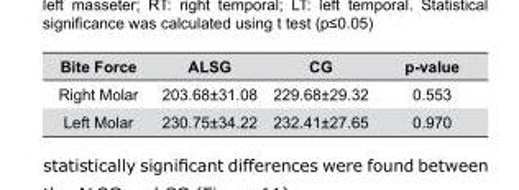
<table><thead><tr><td>Bite Force</td><td>ALSG</td><td>CG</td><td>p-value</td></tr></thead><tbody><tr><td>Right Molar</td><td>203.68±31.08</td><td>229.68±29.32</td><td>0.553</td></tr><tr><td>Left Molar</td><td>230.75±34.22</td><td>232.41±27.65</td><td>0.970</td></tr></tbody></table>